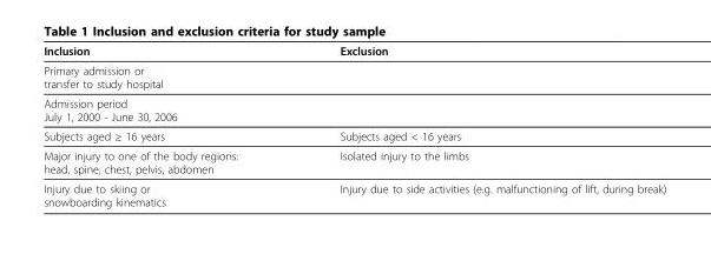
<table><thead><tr><td>Inclusion</td><td>Exclusion</td></tr></thead><tbody><tr><td colspan="2">Primary admission or transfer to study hospital</td></tr><tr><td colspan="2">Admission period July 1, 2000 - June 30, 2006</td></tr><tr><td>Subjects aged ≥ 16 years</td><td>Subjects aged &lt; 16 years</td></tr><tr><td>Major injury to one of the body regions: head, spine, chest, pelvis, abdomen</td><td>Isolated injury to the limbs</td></tr><tr><td>Injury due to skiing or snowboarding kinematics</td><td>Injury due to side activities (e.g. malfunctioning of lift, during break)</td></tr></tbody></table>